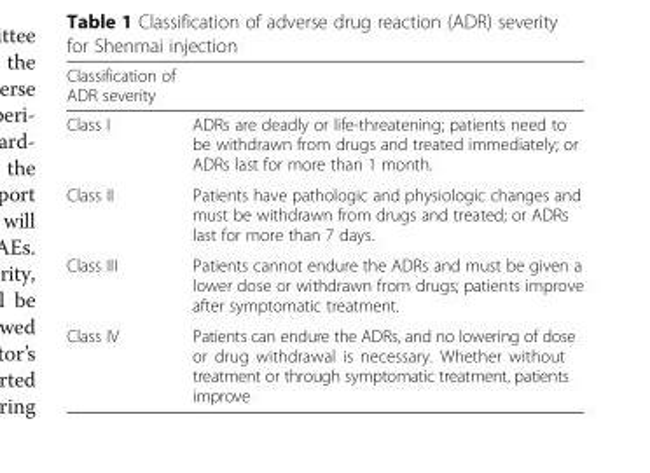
<table><thead><tr><td>Classification of ADR severity</td><td></td></tr></thead><tbody><tr><td>Class I</td><td>ADRs are deadly or life-threatening; patients need to be withdrawn from drugs and treated immediately; or ADRs last for more than 1 month.</td></tr><tr><td>Class II</td><td>Patients have pathologic and physiologic changes and must be withdrawn from drugs and treated; or ADRs last for more than 7 days.</td></tr><tr><td>Class III</td><td>Patients cannot endure the ADRs and must be given a lower dose or withdrawn from drugs; patients improve after symptomatic treatment.</td></tr><tr><td>Class IV</td><td>Patients can endure the ADRs, and no lowering of dose or drug withdrawal is necessary. Whether without treatment or through symptomatic treatment, patients improve</td></tr></tbody></table>